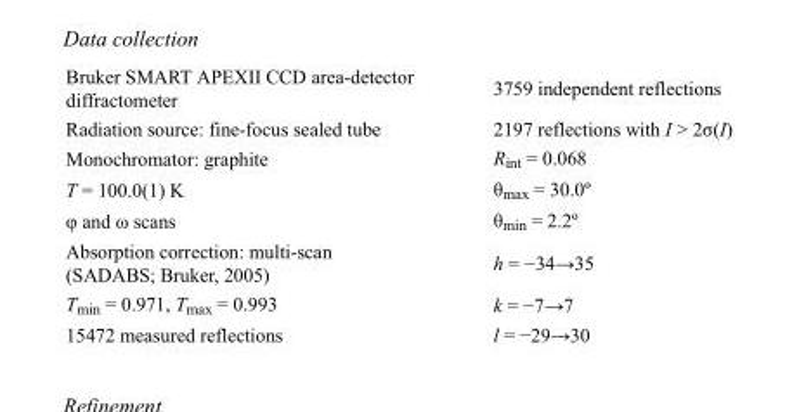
<table><tbody><tr><td>Bruker SMART APEXII CCD area-detector diffractometer</td><td>3759 independent reflections</td></tr><tr><td>Radiation source: fine-focus sealed tube</td><td>2197 reflections with I &gt; 2σ(I)</td></tr><tr><td>Monochromator: graphite</td><td>R<sub>int</sub> = 0.068</td></tr><tr><td>T = 100.0(1) K</td><td>θ<sub>max</sub> = 30.0º</td></tr><tr><td>φ and ω scans</td><td>θ<sub>min</sub> = 2.2º</td></tr><tr><td>Absorption correction: multi-scan (SADABS; Bruker, 2005)</td><td>h = −34→35</td></tr><tr><td>T<sub>min</sub> = 0.971, T<sub>max</sub> = 0.993</td><td>k = −7→7</td></tr><tr><td>15472 measured reflections</td><td>l = −29→30</td></tr></tbody></table>